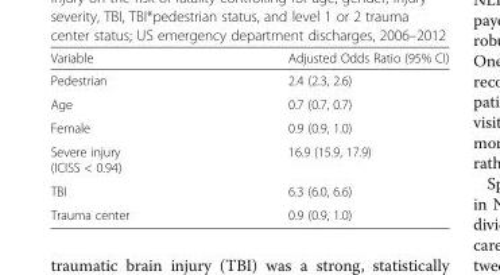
<table><thead><tr><td>Variable</td><td>Adjusted Odds Ratio (95% CI)</td></tr></thead><tbody><tr><td>Pedestrian</td><td>2.4 (2.3, 2.6)</td></tr><tr><td>Age</td><td>0.7 (0.7, 0.7)</td></tr><tr><td>Female</td><td>0.9 (0.9, 1.0)</td></tr><tr><td>Severe injury (ICISS &lt; 0.94)</td><td>16.9 (15.9, 17.9)</td></tr><tr><td>TBI</td><td>6.3 (6.0, 6.6)</td></tr><tr><td>Trauma center</td><td>0.9 (0.9, 1.0)</td></tr></tbody></table>